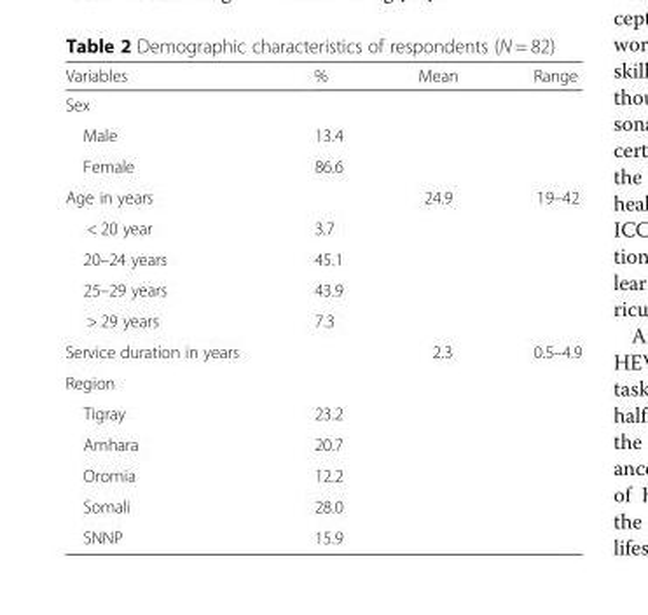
<table><thead><tr><td>Variables</td><td>%</td><td>Mean</td><td>Range</td></tr></thead><tbody><tr><td colspan="4">Sex</td></tr><tr><td>Male</td><td>13.4</td><td></td><td></td></tr><tr><td>Female</td><td>86.6</td><td></td><td></td></tr><tr><td>Age in years</td><td></td><td>24.9</td><td>19–42</td></tr><tr><td>&lt; 20 year</td><td>3.7</td><td></td><td></td></tr><tr><td>20–24 years</td><td>45.1</td><td></td><td></td></tr><tr><td>25–29 years</td><td>43.9</td><td></td><td></td></tr><tr><td>&gt; 29 years</td><td>7.3</td><td></td><td></td></tr><tr><td>Service duration in years</td><td></td><td>2.3</td><td>0.5–4.9</td></tr><tr><td colspan="4">Region</td></tr><tr><td>Tigray</td><td>23.2</td><td></td><td></td></tr><tr><td>Amhara</td><td>20.7</td><td></td><td></td></tr><tr><td>Oromia</td><td>12.2</td><td></td><td></td></tr><tr><td>Somali</td><td>28.0</td><td></td><td></td></tr><tr><td>SNNP</td><td>15.9</td><td></td><td></td></tr></tbody></table>